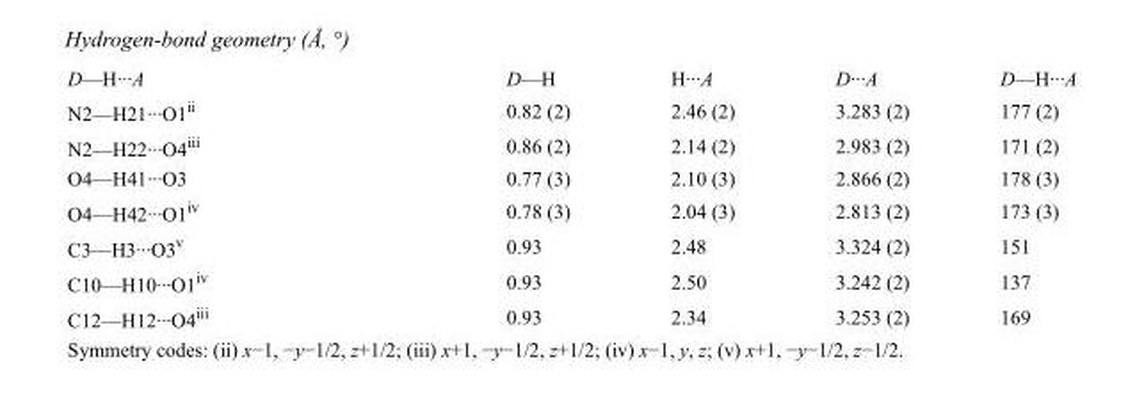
<table><tbody><tr><td>D—H···A</td><td>D—H</td><td>H···A</td><td>D···A</td><td>D—H···A</td></tr><tr><td>N2—H21···O1<sup>ii</sup></td><td>0.82 (2)</td><td>2.46 (2)</td><td>3.283 (2)</td><td>177 (2)</td></tr><tr><td>N2—H22···O4<sup>iii</sup></td><td>0.86 (2)</td><td>2.14 (2)</td><td>2.983 (2)</td><td>171 (2)</td></tr><tr><td>O4—H41···O3</td><td>0.77 (3)</td><td>2.10 (3)</td><td>2.866 (2)</td><td>178 (3)</td></tr><tr><td>O4—H42···O1<sup>iv</sup></td><td>0.78 (3)</td><td>2.04 (3)</td><td>2.813 (2)</td><td>173 (3)</td></tr><tr><td>C3—H3···O3<sup>v</sup></td><td>0.93</td><td>2.48</td><td>3.324 (2)</td><td>151</td></tr><tr><td>C10—H10···O1<sup>iv</sup></td><td>0.93</td><td>2.50</td><td>3.242 (2)</td><td>137</td></tr><tr><td>C12—H12···O4<sup>iii</sup></td><td>0.93</td><td>2.34</td><td>3.253 (2)</td><td>169</td></tr></tbody></table>